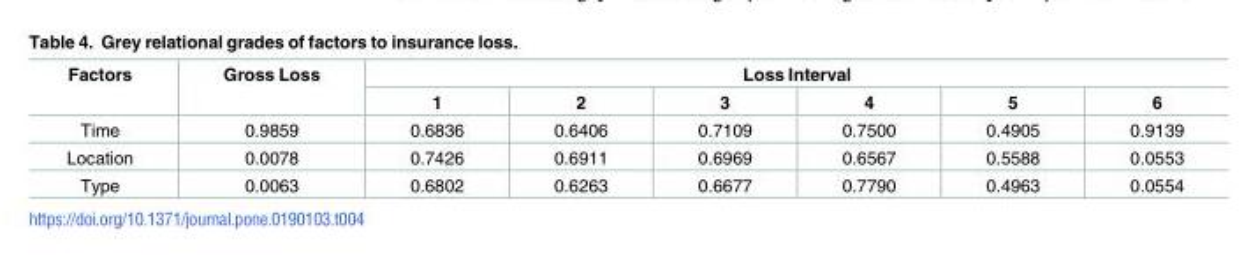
<table><thead><tr><td rowspan="2">Factors</td><td rowspan="2">Gross Loss</td><td colspan="6">Loss Interval</td></tr><tr><td>1</td><td>2</td><td>3</td><td>4</td><td>5</td><td>6</td></tr></thead><tbody><tr><td>Time</td><td>0.9859</td><td>0.6836</td><td>0.6406</td><td>0.7109</td><td>0.7500</td><td>0.4905</td><td>0.9139</td></tr><tr><td>Location</td><td>0.0078</td><td>0.7426</td><td>0.6911</td><td>0.6969</td><td>0.6567</td><td>0.5588</td><td>0.0553</td></tr><tr><td>Type</td><td>0.0063</td><td>0.6802</td><td>0.6263</td><td>0.6677</td><td>0.7790</td><td>0.4963</td><td>0.0554</td></tr></tbody></table>